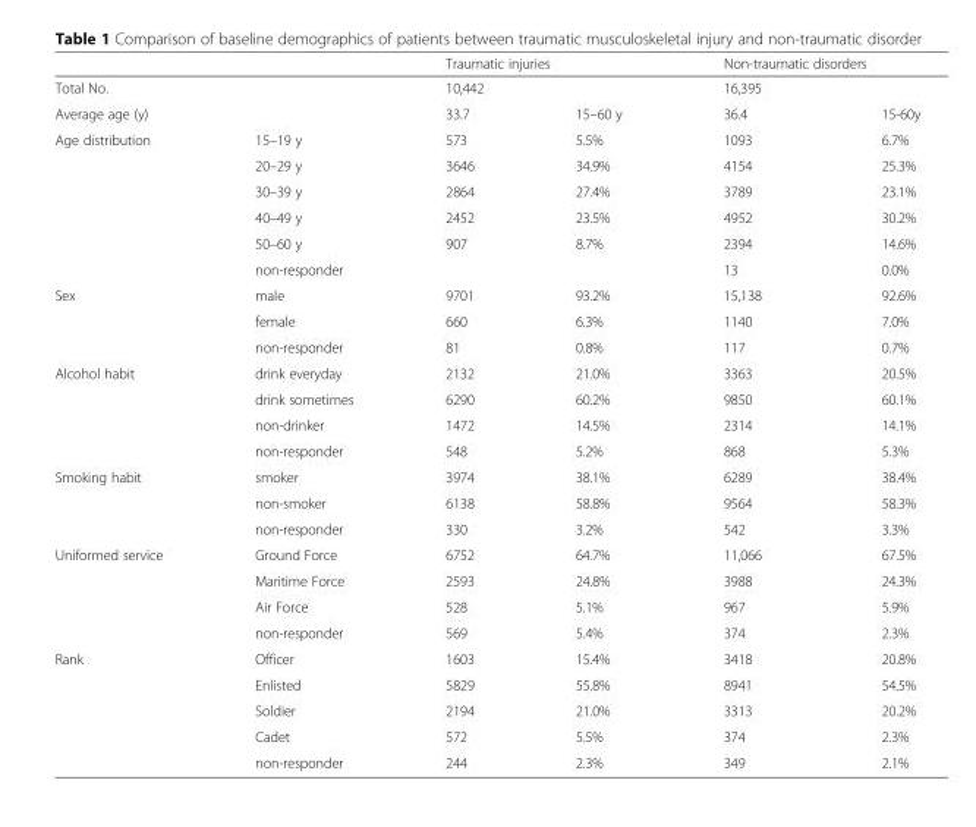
<table><thead><tr><td></td><td></td><td rowspan="2" colspan="2">Traumatic injuries 10,442</td><td rowspan="2" colspan="2">Non-traumatic disorders 16,395</td></tr><tr><td rowspan="2" colspan="2">Total No. Average age (y)</td></tr><tr><td>33.7</td><td>15–60 y</td><td>36.4</td><td>15-60y</td></tr></thead><tbody><tr><td rowspan="6">Age distribution</td><td>15–19 y</td><td>573</td><td>5.5%</td><td>1093</td><td>6.7%</td></tr><tr><td>20–29 y</td><td>3646</td><td>34.9%</td><td>4154</td><td>25.3%</td></tr><tr><td>30–39 y</td><td>2864</td><td>27.4%</td><td>3789</td><td>23.1%</td></tr><tr><td>40–49 y</td><td>2452</td><td>23.5%</td><td>4952</td><td>30.2%</td></tr><tr><td>50–60 y</td><td>907</td><td>8.7%</td><td>2394</td><td>14.6%</td></tr><tr><td>non-responder</td><td></td><td></td><td>13</td><td>0.0%</td></tr><tr><td rowspan="3">Sex</td><td>male</td><td>9701</td><td>93.2%</td><td>15,138</td><td>92.6%</td></tr><tr><td>female</td><td>660</td><td>6.3%</td><td>1140</td><td>7.0%</td></tr><tr><td>non-responder</td><td>81</td><td>0.8%</td><td>117</td><td>0.7%</td></tr><tr><td rowspan="4">Alcohol habit</td><td>drink everyday</td><td>2132</td><td>21.0%</td><td>3363</td><td>20.5%</td></tr><tr><td>drink sometimes</td><td>6290</td><td>60.2%</td><td>9850</td><td>60.1%</td></tr><tr><td>non-drinker</td><td>1472</td><td>14.5%</td><td>2314</td><td>14.1%</td></tr><tr><td>non-responder</td><td>548</td><td>5.2%</td><td>868</td><td>5.3%</td></tr><tr><td rowspan="3">Smoking habit</td><td>smoker</td><td>3974</td><td>38.1%</td><td>6289</td><td>38.4%</td></tr><tr><td>non-smoker</td><td>6138</td><td>58.8%</td><td>9564</td><td>58.3%</td></tr><tr><td>non-responder</td><td>330</td><td>3.2%</td><td>542</td><td>3.3%</td></tr><tr><td rowspan="4">Uniformed service</td><td>Ground Force</td><td>6752</td><td>64.7%</td><td>11,066</td><td>67.5%</td></tr><tr><td>Maritime Force</td><td>2593</td><td>24.8%</td><td>3988</td><td>24.3%</td></tr><tr><td>Air Force</td><td>528</td><td>5.1%</td><td>967</td><td>5.9%</td></tr><tr><td>non-responder</td><td>569</td><td>5.4%</td><td>374</td><td>2.3%</td></tr><tr><td rowspan="5">Rank</td><td>Officer</td><td>1603</td><td>15.4%</td><td>3418</td><td>20.8%</td></tr><tr><td>Enlisted</td><td>5829</td><td>55.8%</td><td>8941</td><td>54.5%</td></tr><tr><td>Soldier</td><td>2194</td><td>21.0%</td><td>3313</td><td>20.2%</td></tr><tr><td>Cadet</td><td>572</td><td>5.5%</td><td>374</td><td>2.3%</td></tr><tr><td>non-responder</td><td>244</td><td>2.3%</td><td>349</td><td>2.1%</td></tr></tbody></table>